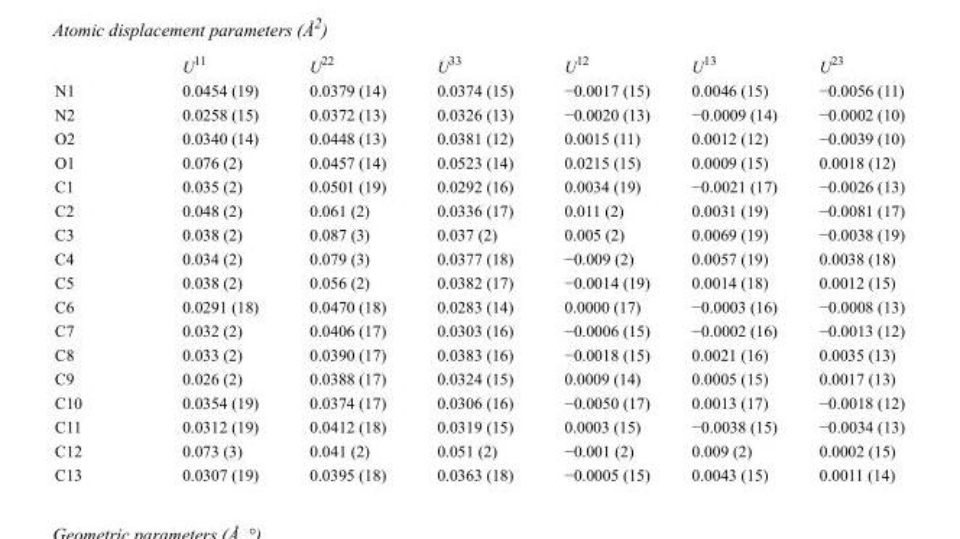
<table><thead><tr><td></td><td>U<sup>11</sup></td><td>U<sup>22</sup></td><td>U<sup>33</sup></td><td>U<sup>12</sup></td><td>U<sup>13</sup></td><td>U<sup>23</sup></td></tr></thead><tbody><tr><td>N1</td><td>0.0454 (19)</td><td>0.0379 (14)</td><td>0.0374 (15)</td><td>−0.0017 (15)</td><td>0.0046 (15)</td><td>−0.0056 (11)</td></tr><tr><td>N2</td><td>0.0258 (15)</td><td>0.0372 (13)</td><td>0.0326 (13)</td><td>−0.0020 (13)</td><td>−0.0009 (14)</td><td>−0.0002 (10)</td></tr><tr><td>O2</td><td>0.0340 (14)</td><td>0.0448 (13)</td><td>0.0381 (12)</td><td>0.0015 (11)</td><td>0.0012 (12)</td><td>−0.0039 (10)</td></tr><tr><td>O1</td><td>0.076 (2)</td><td>0.0457 (14)</td><td>0.0523 (14)</td><td>0.0215 (15)</td><td>0.0009 (15)</td><td>0.0018 (12)</td></tr><tr><td>C1</td><td>0.035 (2)</td><td>0.0501 (19)</td><td>0.0292 (16)</td><td>0.0034 (19)</td><td>−0.0021 (17)</td><td>−0.0026 (13)</td></tr><tr><td>C2</td><td>0.048 (2)</td><td>0.061 (2)</td><td>0.0336 (17)</td><td>0.011 (2)</td><td>0.0031 (19)</td><td>−0.0081 (17)</td></tr><tr><td>C3</td><td>0.038 (2)</td><td>0.087 (3)</td><td>0.037 (2)</td><td>0.005 (2)</td><td>0.0069 (19)</td><td>−0.0038 (19)</td></tr><tr><td>C4</td><td>0.034 (2)</td><td>0.079 (3)</td><td>0.0377 (18)</td><td>−0.009 (2)</td><td>0.0057 (19)</td><td>0.0038 (18)</td></tr><tr><td>C5</td><td>0.038 (2)</td><td>0.056 (2)</td><td>0.0382 (17)</td><td>−0.0014 (19)</td><td>0.0014 (18)</td><td>0.0012 (15)</td></tr><tr><td>C6</td><td>0.0291 (18)</td><td>0.0470 (18)</td><td>0.0283 (14)</td><td>0.0000 (17)</td><td>−0.0003 (16)</td><td>−0.0008 (13)</td></tr><tr><td>C7</td><td>0.032 (2)</td><td>0.0406 (17)</td><td>0.0303 (16)</td><td>−0.0006 (15)</td><td>−0.0002 (16)</td><td>−0.0013 (12)</td></tr><tr><td>C8</td><td>0.033 (2)</td><td>0.0390 (17)</td><td>0.0383 (16)</td><td>−0.0018 (15)</td><td>0.0021 (16)</td><td>0.0035 (13)</td></tr><tr><td>C9</td><td>0.026 (2)</td><td>0.0388 (17)</td><td>0.0324 (15)</td><td>0.0009 (14)</td><td>0.0005 (15)</td><td>0.0017 (13)</td></tr><tr><td>C10</td><td>0.0354 (19)</td><td>0.0374 (17)</td><td>0.0306 (16)</td><td>−0.0050 (17)</td><td>0.0013 (17)</td><td>−0.0018 (12)</td></tr><tr><td>C11</td><td>0.0312 (19)</td><td>0.0412 (18)</td><td>0.0319 (15)</td><td>0.0003 (15)</td><td>−0.0038 (15)</td><td>−0.0034 (13)</td></tr><tr><td>C12</td><td>0.073 (3)</td><td>0.041 (2)</td><td>0.051 (2)</td><td>−0.001 (2)</td><td>0.009 (2)</td><td>0.0002 (15)</td></tr><tr><td>C13</td><td>0.0307 (19)</td><td>0.0395 (18)</td><td>0.0363 (18)</td><td>−0.0005 (15)</td><td>0.0043 (15)</td><td>0.0011 (14)</td></tr></tbody></table>